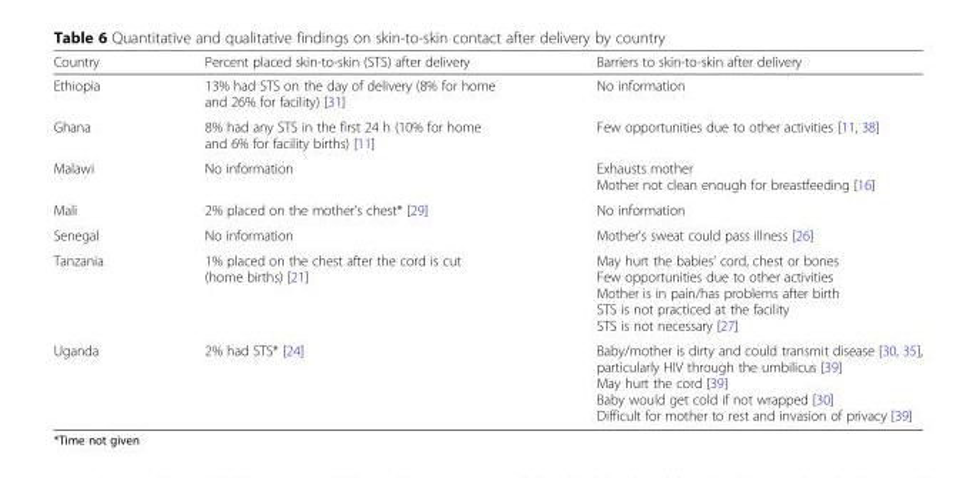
<table><thead><tr><td>Country</td><td>Percent placed skin-to-skin (STS) after delivery</td><td>Barriers to skin-to-skin after delivery</td></tr></thead><tbody><tr><td>Ethiopia</td><td>13% had STS on the day of delivery (8% for home and 26% for facility) [31]</td><td>No information</td></tr><tr><td>Ghana</td><td>8% had any STS in the first 24 h (10% for home and 6% for facility births) [11]</td><td>Few opportunities due to other activities [11, 38]</td></tr><tr><td>Malawi</td><td>No information</td><td>Exhausts mother Mother not clean enough for breastfeeding [16]</td></tr><tr><td>Mali</td><td>2% placed on the mother’s chest* [29]</td><td>No information</td></tr><tr><td>Senegal</td><td>No information</td><td>Mother’s sweat could pass illness [26]</td></tr><tr><td>Tanzania</td><td>1% placed on the chest after the cord is cut (home births) [21]</td><td>May hurt the babies’ cord, chest or bones Few opportunities due to other activities Mother is in pain/has problems after birth STS is not practiced at the facility STS is not necessary [27]</td></tr><tr><td>Uganda</td><td>2% had STS* [24]</td><td>Baby/mother is dirty and could transmit disease [30, 35], particularly HIV through the umbilicus [39] May hurt the cord [39] Baby would get cold if not wrapped [30] Difficult for mother to rest and invasion of privacy [39]</td></tr></tbody></table>